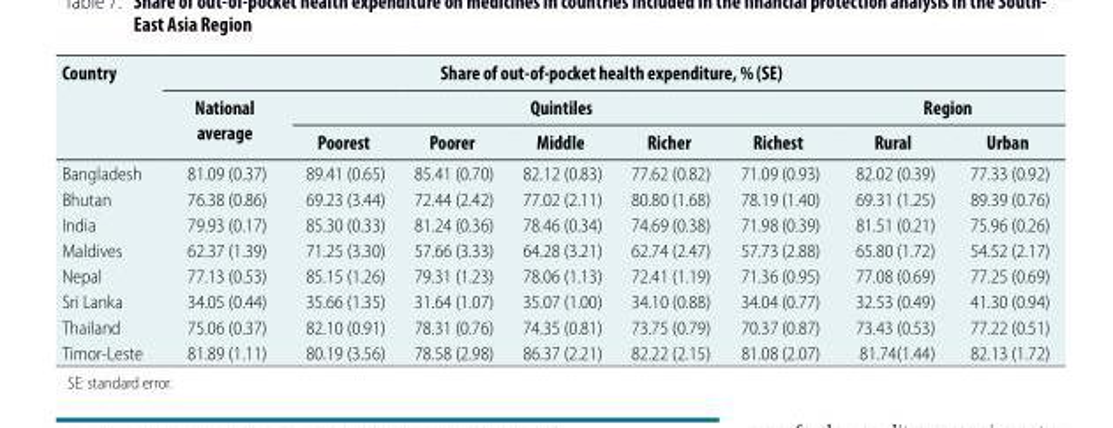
<table><thead><tr><td rowspan="3">Country</td><td colspan="8">Share of out-of-pocket health expenditure, % (SE)</td></tr><tr><td rowspan="2">National average</td><td colspan="5">Quintiles</td><td colspan="2">Region</td></tr><tr><td>Poorest</td><td>Poorer</td><td>Middle</td><td>Richer</td><td>Richest</td><td>Rural</td><td>Urban</td></tr></thead><tbody><tr><td>Bangladesh</td><td>81.09 (0.37)</td><td>89.41 (0.65)</td><td>85.41 (0.70)</td><td>82.12 (0.83)</td><td>77.62 (0.82)</td><td>71.09 (0.93)</td><td>82.02 (0.39)</td><td>77.33 (0.92)</td></tr><tr><td>Bhutan</td><td>76.38 (0.86)</td><td>69.23 (3.44)</td><td>72.44 (2.42)</td><td>77.02 (2.11)</td><td>80.80 (1.68)</td><td>78.19 (1.40)</td><td>69.31 (1.25)</td><td>89.39 (0.76)</td></tr><tr><td>India</td><td>79.93 (0.17)</td><td>85.30 (0.33)</td><td>81.24 (0.36)</td><td>78.46 (0.34)</td><td>74.69 (0.38)</td><td>71.98 (0.39)</td><td>81.51 (0.21)</td><td>75.96 (0.26)</td></tr><tr><td>Maldives</td><td>62.37 (1.39)</td><td>71.25 (3.30)</td><td>57.66 (3.33)</td><td>64.28 (3.21)</td><td>62.74 (2.47)</td><td>57.73 (2.88)</td><td>65.80 (1.72)</td><td>54.52 (2.17)</td></tr><tr><td>Nepal</td><td>77.13 (0.53)</td><td>85.15 (1.26)</td><td>79.31 (1.23)</td><td>78.06 (1.13)</td><td>72.41 (1.19)</td><td>71.36 (0.95)</td><td>77.08 (0.69)</td><td>77.25 (0.69)</td></tr><tr><td>Sri Lanka</td><td>34.05 (0.44)</td><td>35.66 (1.35)</td><td>31.64 (1.07)</td><td>35.07 (1.00)</td><td>34.10 (0.88)</td><td>34.04 (0.77)</td><td>32.53 (0.49)</td><td>41.30 (0.94)</td></tr><tr><td>Thailand</td><td>75.06 (0.37)</td><td>82.10 (0.91)</td><td>78.31 (0.76)</td><td>74.35 (0.81)</td><td>73.75 (0.79)</td><td>70.37 (0.87)</td><td>73.43 (0.53)</td><td>77.22 (0.51)</td></tr><tr><td>Timor-Leste</td><td>81.89 (1.11)</td><td>80.19 (3.56)</td><td>78.58 (2.98)</td><td>86.37 (2.21)</td><td>82.22 (2.15)</td><td>81.08 (2.07)</td><td>81.74(1.44)</td><td>82.13 (1.72)</td></tr></tbody></table>